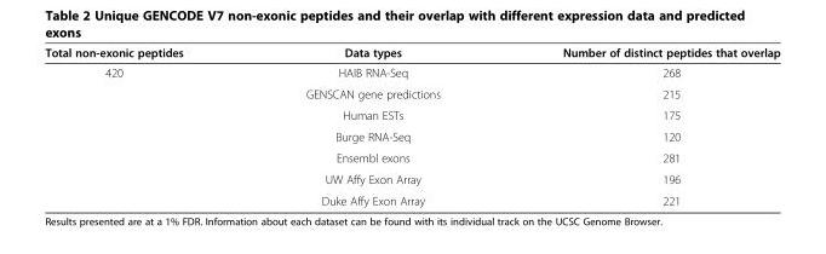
<table><thead><tr><td>Total non-exonic peptides</td><td>Data types</td><td>Number of distinct peptides that overlap</td></tr></thead><tbody><tr><td rowspan="7">420</td><td>HAIB RNA-Seq</td><td>268</td></tr><tr><td>GENSCAN gene predictions</td><td>215</td></tr><tr><td>Human ESTs</td><td>175</td></tr><tr><td>Burge RNA-Seq</td><td>120</td></tr><tr><td>Ensembl exons</td><td>281</td></tr><tr><td>UW Affy Exon Array</td><td>196</td></tr><tr><td>Duke Affy Exon Array</td><td>221</td></tr></tbody></table>